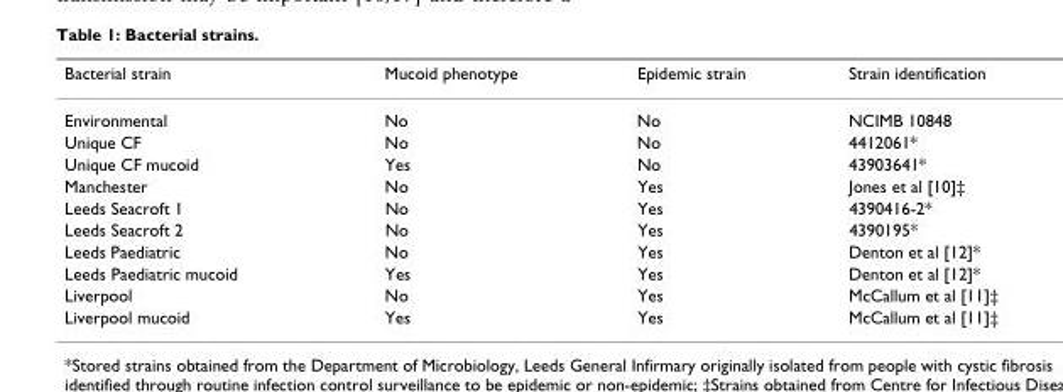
<table><thead><tr><td>Bacterial strain</td><td>Mucoid phenotype</td><td>Epidemic strain</td><td>Strain identification</td></tr></thead><tbody><tr><td>Environmental</td><td>No</td><td>No</td><td>NCIMB 10848</td></tr><tr><td>Unique CF</td><td>No</td><td>No</td><td>4412061*</td></tr><tr><td>Unique CF mucoid</td><td>Yes</td><td>No</td><td>43903641*</td></tr><tr><td>Manchester</td><td>No</td><td>Yes</td><td>Jones et al [10]‡</td></tr><tr><td>Leeds Seacroft 1</td><td>No</td><td>Yes</td><td>4390416-2*</td></tr><tr><td>Leeds Seacroft 2</td><td>No</td><td>Yes</td><td>4390195*</td></tr><tr><td>Leeds Paediatric</td><td>No</td><td>Yes</td><td>Denton et al [12]*</td></tr><tr><td>Leeds Paediatric mucoid</td><td>Yes</td><td>Yes</td><td>Denton et al [12]*</td></tr><tr><td>Liverpool</td><td>No</td><td>Yes</td><td>McCallum et al [11]‡</td></tr><tr><td>Liverpool mucoid</td><td>Yes</td><td>Yes</td><td>McCallum et al [11]‡</td></tr></tbody></table>